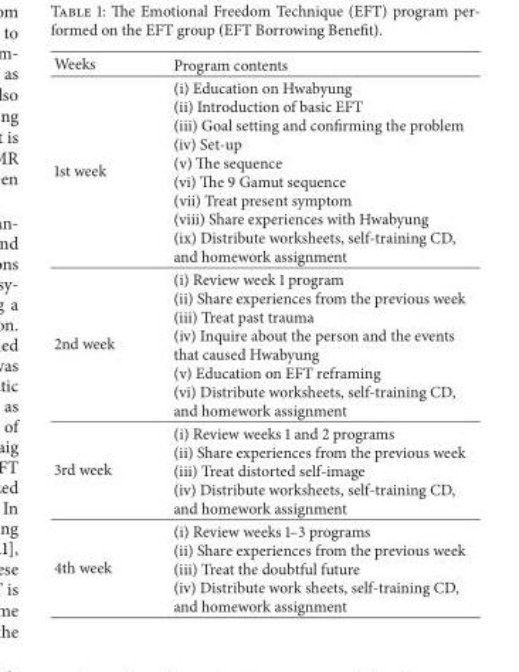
<table><thead><tr><td>Weeks</td><td>Program contents</td></tr></thead><tbody><tr><td>1st week</td><td>(i) Education on Hwabyung (ii) Introduction of basic EFT (iii) Goal setting and confirming the problem (iv) Set-up (v) The sequence (vi) The 9 Gamut sequence (vii) Treat present symptom (viii) Share experiences with Hwabyung (ix) Distribute worksheets, self-training CD, and homework assignment</td></tr><tr><td>2nd week</td><td>(i) Review week 1 program (ii) Share experiences from the previous week (iii) Treat past trauma (iv) Inquire about the person and the events that caused Hwabyung (v) Education on EFT reframing (vi) Distribute worksheets, self-training CD, and homework assignment</td></tr><tr><td>3rd week</td><td>(i) Review weeks 1 and 2 programs (ii) Share experiences from the previous week (iii) Treat distorted self-image (iv) Distribute worksheets, self-training CD, and homework assignment</td></tr><tr><td>4th week</td><td>(i) Review weeks 1–3 programs (ii) Share experiences from the previous week (iii) Treat the doubtful future (iv) Distribute work sheets, self-training CD, and homework assignment</td></tr></tbody></table>